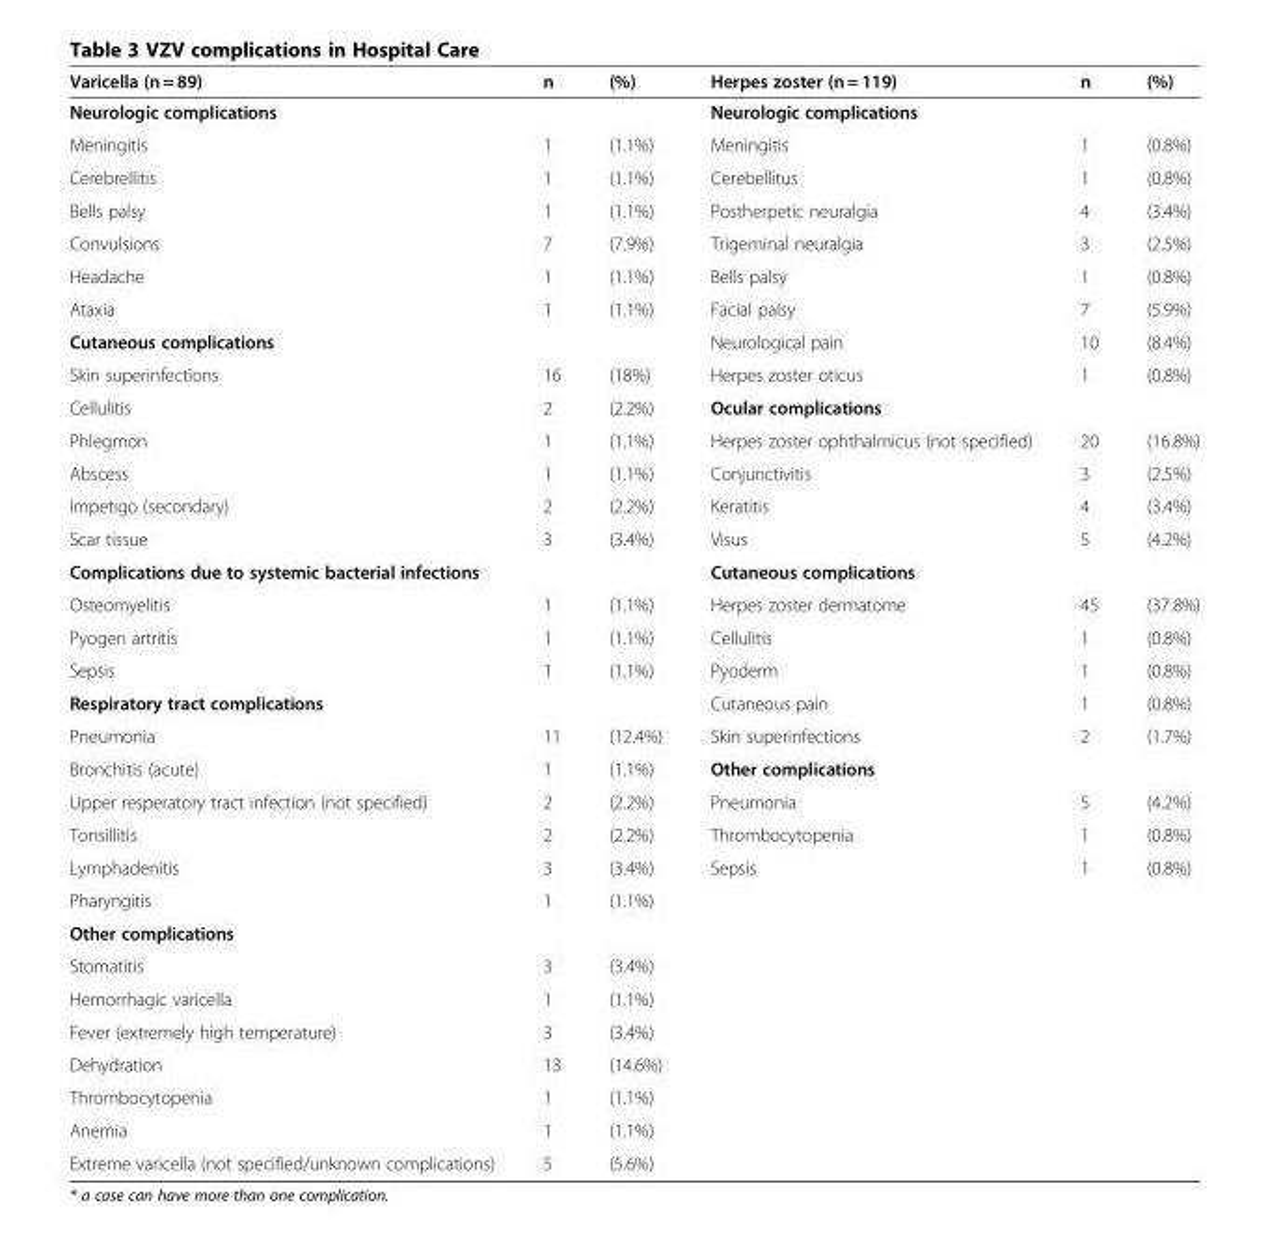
<table><thead><tr><td>Varicella (n = 89)</td><td>n</td><td>(%)</td><td>Herpes zoster (n = 119)</td><td>n</td><td>(%)</td></tr></thead><tbody><tr><td>Neurologic complications</td><td colspan="2"></td><td>Neurologic complications</td><td colspan="2"></td></tr><tr><td>Meningitis</td><td>1</td><td>(1.1%)</td><td>Meningitis</td><td>1</td><td>(0.8%)</td></tr><tr><td>Cerebrellitis</td><td>1</td><td>(1.1%)</td><td>Cerebellitus</td><td>1</td><td>(0.8%)</td></tr><tr><td>Bells palsy</td><td>1</td><td>(1.1%)</td><td>Postherpetic neuralgia</td><td>4</td><td>(3.4%)</td></tr><tr><td>Convulsions</td><td>7</td><td>(7.9%)</td><td>Trigeminal neuralgia</td><td>3</td><td>(2.5%)</td></tr><tr><td>Headache</td><td>1</td><td>(1.1%)</td><td>Bells palsy</td><td>1</td><td>(0.8%)</td></tr><tr><td>Ataxia</td><td>1</td><td>(1.1%)</td><td>Facial palsy</td><td>7</td><td>(5.9%)</td></tr><tr><td>Cutaneous complications</td><td colspan="2"></td><td>Neurological pain</td><td>10</td><td>(8.4%)</td></tr><tr><td>Skin superinfections</td><td>16</td><td>(18%)</td><td>Herpes zoster oticus</td><td>1</td><td>(0.8%)</td></tr><tr><td>Cellulitis</td><td>2</td><td>(2.2%)</td><td>Ocular complications</td><td colspan="2"></td></tr><tr><td>Phlegmon</td><td>1</td><td>(1.1%)</td><td>Herpes zoster ophthalmicus (not specified)</td><td>20</td><td>(16.8%)</td></tr><tr><td>Abscess</td><td>1</td><td>(1.1%)</td><td>Conjunctivitis</td><td>3</td><td>(2.5%)</td></tr><tr><td>Impetigo (secondary)</td><td>2</td><td>(2.2%)</td><td>Keratitis</td><td>4</td><td>(3.4%)</td></tr><tr><td>Scar tissue</td><td>3</td><td>(3.4%)</td><td>Visus</td><td>5</td><td>(4.2%)</td></tr><tr><td>Complications due to systemic bacterial infections</td><td colspan="2"></td><td>Cutaneous complications</td><td colspan="2"></td></tr><tr><td>Osteomyelitis</td><td>1</td><td>(1.1%)</td><td>Herpes zoster dermatome</td><td>45</td><td>(37.8%)</td></tr><tr><td>Pyogen artritis</td><td>1</td><td>(1.1%)</td><td>Cellulitis</td><td>1</td><td>(0.8%)</td></tr><tr><td>Sepsis</td><td>1</td><td>(1.1%)</td><td>Pyoderm</td><td>1</td><td>(0.8%)</td></tr><tr><td>Respiratory tract complications</td><td colspan="2"></td><td>Cutaneous pain</td><td>1</td><td>(0.8%)</td></tr><tr><td>Pneumonia</td><td>11</td><td>(12.4%)</td><td>Skin superinfections</td><td>2</td><td>(1.7%)</td></tr><tr><td>Bronchitis (acute)</td><td>1</td><td>(1.1%)</td><td>Other complications</td><td colspan="2"></td></tr><tr><td>Upper resperatory tract infection (not specified)</td><td>2</td><td>(2.2%)</td><td>Pneumonia</td><td>5</td><td>(4.2%)</td></tr><tr><td>Tonsillitis</td><td>2</td><td>(2.2%)</td><td>Thrombocytopenia</td><td>1</td><td>(0.8%)</td></tr><tr><td>Lymphadenitis</td><td>3</td><td>(3.4%)</td><td>Sepsis</td><td>1</td><td>(0.8%)</td></tr><tr><td>Pharyngitis</td><td>1</td><td>(1.1%)</td><td></td><td></td><td></td></tr><tr><td colspan="6">Other complications</td></tr><tr><td>Stomatitis</td><td>3</td><td>(3.4%)</td><td></td><td></td><td></td></tr><tr><td>Hemorrhagic varicella</td><td>1</td><td>(1.1%)</td><td></td><td></td><td></td></tr><tr><td>Fever (extremely high temperature)</td><td>3</td><td>(3.4%)</td><td></td><td></td><td></td></tr><tr><td>Dehydration</td><td>13</td><td>(14.6%)</td><td></td><td></td><td></td></tr><tr><td>Thrombocytopenia</td><td>1</td><td>(1.1%)</td><td></td><td></td><td></td></tr><tr><td>Anemia</td><td>1</td><td>(1.1%)</td><td></td><td></td><td></td></tr><tr><td>Extreme varicella (not specified/unknown complications)</td><td>5</td><td>(5.6%)</td><td></td><td></td><td></td></tr></tbody></table>